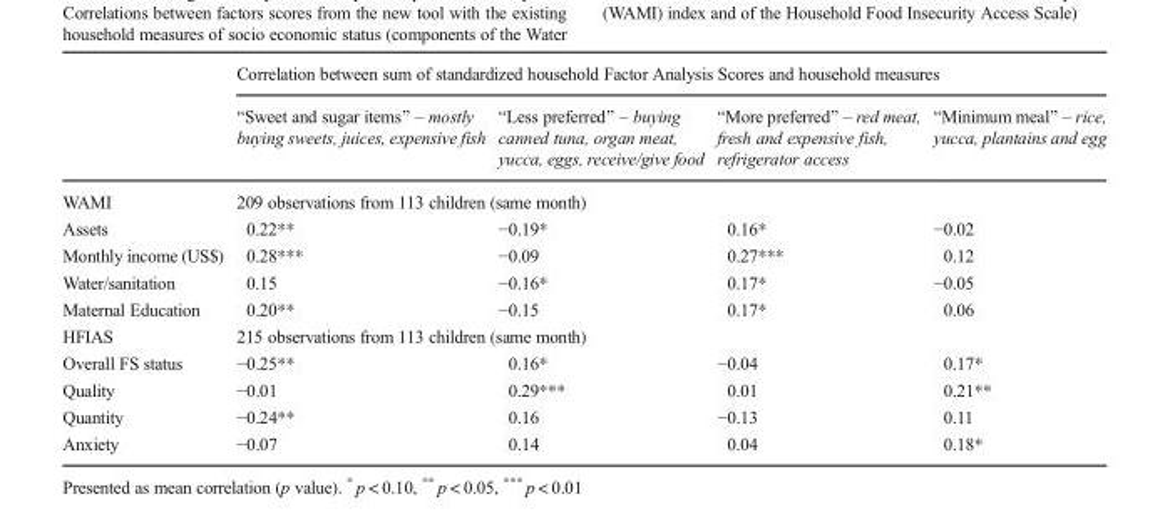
<table><thead><tr><td rowspan="2"></td><td colspan="4">Correlation between sum of standardized household Factor Analysis Scores and household measures</td></tr><tr><td>BSweet and sugar items^ – mostly buying sweets, juices, expensive fish</td><td>BLess preferred^ – buying canned tuna, organ meat, yucca, eggs, receive/give food</td><td>BMore preferred^ – red meat, fresh and expensive fish, refrigerator access</td><td>BMinimum meal^ – rice, yucca, plantains and egg</td></tr></thead><tbody><tr><td>WAMI</td><td colspan="4">209 observations from 113 children (same month)</td></tr><tr><td>Assets</td><td>0.22**</td><td>−0.19*</td><td>0.16*</td><td>−0.02</td></tr><tr><td>Monthly income (US$)</td><td>0.28***</td><td>−0.09</td><td>0.27***</td><td>0.12</td></tr><tr><td>Water/sanitation</td><td>0.15</td><td>−0.16*</td><td>0.17*</td><td>−0.05</td></tr><tr><td>Maternal Education</td><td>0.20**</td><td>−0.15</td><td>0.17*</td><td>0.06</td></tr><tr><td>HFIAS</td><td colspan="4">215 observations from 113 children (same month)</td></tr><tr><td>Overall FS status</td><td>−0.25**</td><td>0.16*</td><td>−0.04</td><td>0.17*</td></tr><tr><td>Quality</td><td>−0.01</td><td>0.29***</td><td>0.01</td><td>0.21**</td></tr><tr><td>Quantity</td><td>−0.24**</td><td>0.16</td><td>−0.13</td><td>0.11</td></tr><tr><td>Anxiety</td><td>−0.07</td><td>0.14</td><td>0.04</td><td>0.18*</td></tr></tbody></table>